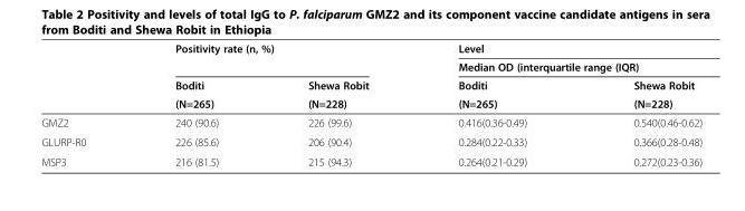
<table><thead><tr><td rowspan="4"></td><td rowspan="2" colspan="2">Positivity rate (n, %)</td><td rowspan="2" colspan="2">Level Median OD (interquartile range (IQR)</td></tr><tr></tr><tr><td rowspan="2">Boditi (N=265)</td><td rowspan="2">Shewa Robit (N=228)</td><td rowspan="2">Boditi (N=265)</td><td rowspan="2">Shewa Robit (N=228)</td></tr><tr></tr></thead><tbody><tr><td>GMZ2</td><td>240 (90.6)</td><td>226 (99.6)</td><td>0.416(0.36-0.49)</td><td>0.540(0.46-0.62)</td></tr><tr><td>GLURP-R0</td><td>226 (85.6)</td><td>206 (90.4)</td><td>0.284(0.22-0.33)</td><td>0.366(0.28-0.48)</td></tr><tr><td>MSP3</td><td>216 (81.5)</td><td>215 (94.3)</td><td>0.264(0.21-0.29)</td><td>0.272(0.23-0.36)</td></tr></tbody></table>